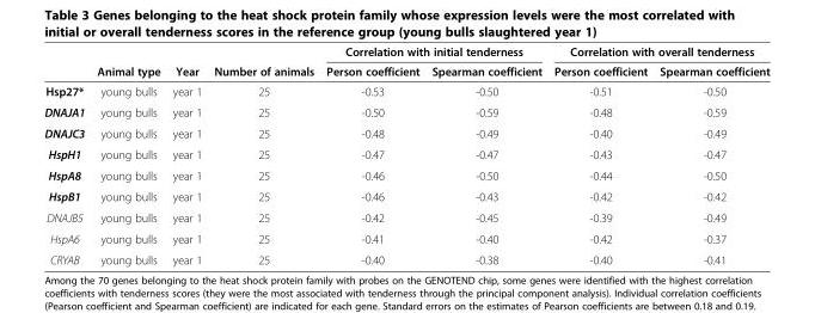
<table><thead><tr><td rowspan="2"></td><td rowspan="2">Animal type</td><td rowspan="2">Year</td><td rowspan="2">Number of animals</td><td colspan="2">Correlation with initial tenderness</td><td colspan="2">Correlation with overall tenderness</td></tr><tr><td>Person coefficient</td><td>Spearman coefficient</td><td>Person coefficient</td><td>Spearman coefficient</td></tr></thead><tbody><tr><td>Hsp27*</td><td>young bulls</td><td>year 1</td><td>25</td><td>-0.53</td><td>-0.50</td><td>-0.51</td><td>-0.50</td></tr><tr><td>DNAJA1</td><td>young bulls</td><td>year 1</td><td>25</td><td>-0.50</td><td>-0.59</td><td>-0.48</td><td>-0.59</td></tr><tr><td>DNAJC3</td><td>young bulls</td><td>year 1</td><td>25</td><td>-0.48</td><td>-0.49</td><td>-0.40</td><td>-0.49</td></tr><tr><td>HspH1</td><td>young bulls</td><td>year 1</td><td>25</td><td>-0.47</td><td>-0.47</td><td>-0.43</td><td>-0.47</td></tr><tr><td>HspA8</td><td>young bulls</td><td>year 1</td><td>25</td><td>-0.46</td><td>-0.50</td><td>-0.44</td><td>-0.50</td></tr><tr><td>HspB1</td><td>young bulls</td><td>year 1</td><td>25</td><td>-0.46</td><td>-0.43</td><td>-0.42</td><td>-0.42</td></tr><tr><td>DNAJB5</td><td>young bulls</td><td>year 1</td><td>25</td><td>-0.42</td><td>-0.45</td><td>-0.39</td><td>-0.49</td></tr><tr><td>HspA6</td><td>young bulls</td><td>year 1</td><td>25</td><td>-0.41</td><td>-0.40</td><td>-0.42</td><td>-0.37</td></tr><tr><td>CRYAB</td><td>young bulls</td><td>year 1</td><td>25</td><td>-0.40</td><td>-0.38</td><td>-0.40</td><td>-0.41</td></tr></tbody></table>